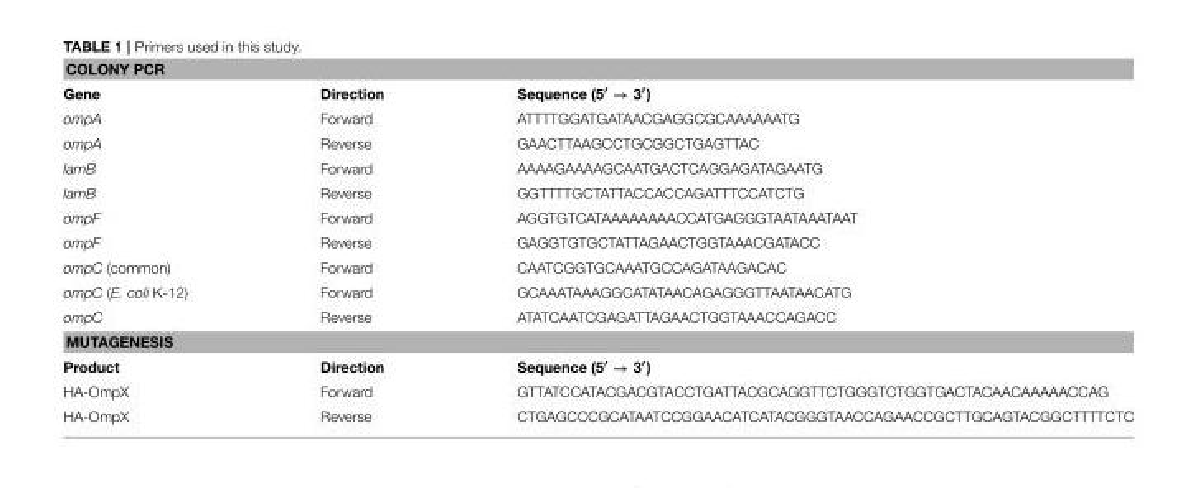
<table><tbody><tr><td colspan="3">COLONY PCR</td></tr><tr><td>Gene</td><td>Direction</td><td>Sequence (5′ → 3′)</td></tr><tr><td>ompA</td><td>Forward</td><td>ATTTTGGATGATAACGAGGCGCAAAAAATG</td></tr><tr><td>ompA</td><td>Reverse</td><td>GAACTTAAGCCTGCGGCTGAGTTAC</td></tr><tr><td>lamB</td><td>Forward</td><td>AAAAGAAAAGCAATGACTCAGGAGATAGAATG</td></tr><tr><td>lamB</td><td>Reverse</td><td>GGTTTTGCTATTACCACCAGATTTCCATCTG</td></tr><tr><td>ompF</td><td>Forward</td><td>AGGTGTCATAAAAAAAACCATGAGGGTAATAAATAAT</td></tr><tr><td>ompF</td><td>Reverse</td><td>GAGGTGTGCTATTAGAACTGGTAAACGATACC</td></tr><tr><td>ompC (common)</td><td>Forward</td><td>CAATCGGTGCAAATGCCAGATAAGACAC</td></tr><tr><td>ompC (E. coli K-12)</td><td>Forward</td><td>GCAAATAAAGGCATATAACAGAGGGTTAATAACATG</td></tr><tr><td>ompC</td><td>Reverse</td><td>ATATCAATCGAGATTAGAACTGGTAAACCAGACC</td></tr><tr><td colspan="3">MUTAGENESIS</td></tr><tr><td>Product</td><td>Direction</td><td>Sequence (5′ → 3′)</td></tr><tr><td>HA-OmpX</td><td>Forward</td><td>GTTATCCATACGACGTACCTGATTACGCAGGTTCTGGGTCTGGTGACTACAACAAAAACCAG</td></tr><tr><td>HA-OmpX</td><td>Reverse</td><td>CTGAGCCCGCATAATCCGGAACATCATACGGGTAACCAGAACCGCTTGCAGTACGGCTTTTCTC</td></tr></tbody></table>